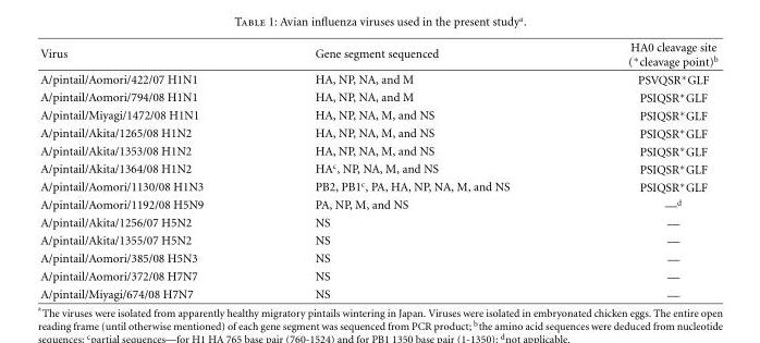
<table><thead><tr><td>Virus</td><td>Gene segment sequenced</td><td>HA0 cleavage site (∗cleavage point)b</td></tr></thead><tbody><tr><td>A/pintail/Aomori/422/07 H1N1</td><td>HA, NP, NA, and M</td><td>PSVQSR∗GLF</td></tr><tr><td>A/pintail/Aomori/794/08 H1N1</td><td>HA, NP, NA, and M</td><td>PSIQSR∗GLF</td></tr><tr><td>A/pintail/Miyagi/1472/08 H1N1</td><td>HA, NP, NA, M, and NS</td><td>PSIQSR∗GLF</td></tr><tr><td>A/pintail/Akita/1265/08 H1N2</td><td>HA, NP, NA, M, and NS</td><td>PSIQSR∗GLF</td></tr><tr><td>A/pintail/Akita/1353/08 H1N2</td><td>HA, NP, NA, M, and NS</td><td>PSIQSR∗GLF</td></tr><tr><td>A/pintail/Akita/1364/08 H1N2</td><td>HA<sup>c</sup>, NP, NA, M, and NS</td><td>PSIQSR∗GLF</td></tr><tr><td>A/pintail/Aomori/1130/08 H1N3</td><td>PB2, PB1<sup>c</sup>, PA, HA, NP, NA, M, and NS</td><td>PSIQSR∗GLF</td></tr><tr><td>A/pintail/Aomori/1192/08 H5N9</td><td>PA, NP, M, and NS</td><td>—<sup>d</sup></td></tr><tr><td>A/pintail/Akita/1256/07 H5N2</td><td>NS</td><td>—</td></tr><tr><td>A/pintail/Akita/1355/07 H5N2</td><td>NS</td><td>—</td></tr><tr><td>A/pintail/Aomori/385/08 H5N3</td><td>NS</td><td>—</td></tr><tr><td>A/pintail/Aomori/372/08 H7N7</td><td>NS</td><td>—</td></tr><tr><td>A/pintail/Miyagi/674/08 H7N7</td><td>NS</td><td>—</td></tr></tbody></table>